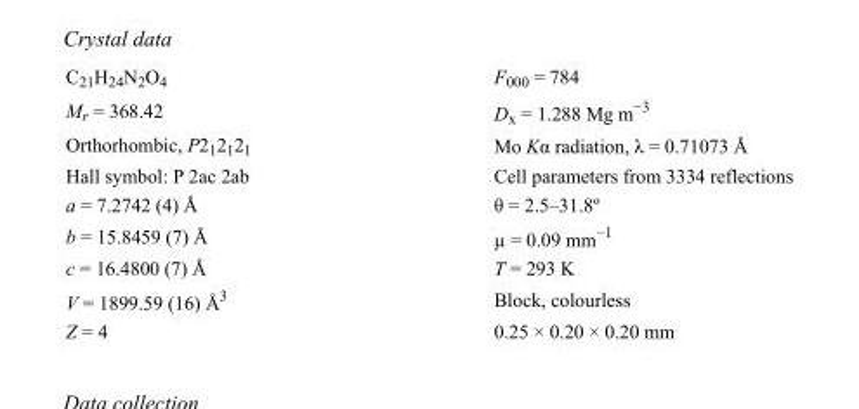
<table><tbody><tr><td>C<sub>21</sub>H<sub>24</sub>N<sub>2</sub>O<sub>4</sub></td><td>F000 = 784</td></tr><tr><td>M<sub>r</sub> = 368.42</td><td>D<sub>x</sub> = 1.288 Mg m<sup>−3</sup></td></tr><tr><td>Orthorhombic, P2<sub>1</sub>2<sub>1</sub>2<sub>1</sub></td><td>Mo Kα radiation, λ = 0.71073 Å</td></tr><tr><td>Hall symbol: P 2ac 2ab</td><td>Cell parameters from 3334 reflections</td></tr><tr><td>a = 7.2742 (4) Å</td><td>θ = 2.5–31.8º</td></tr><tr><td>b = 15.8459 (7) Å</td><td>µ = 0.09 mm<sup>−1</sup></td></tr><tr><td>c = 16.4800 (7) Å</td><td>T = 293 K</td></tr><tr><td>V = 1899.59 (16) Å<sup>3</sup></td><td>Block, colourless</td></tr><tr><td>Z = 4</td><td>0.25 × 0.20 × 0.20 mm</td></tr></tbody></table>